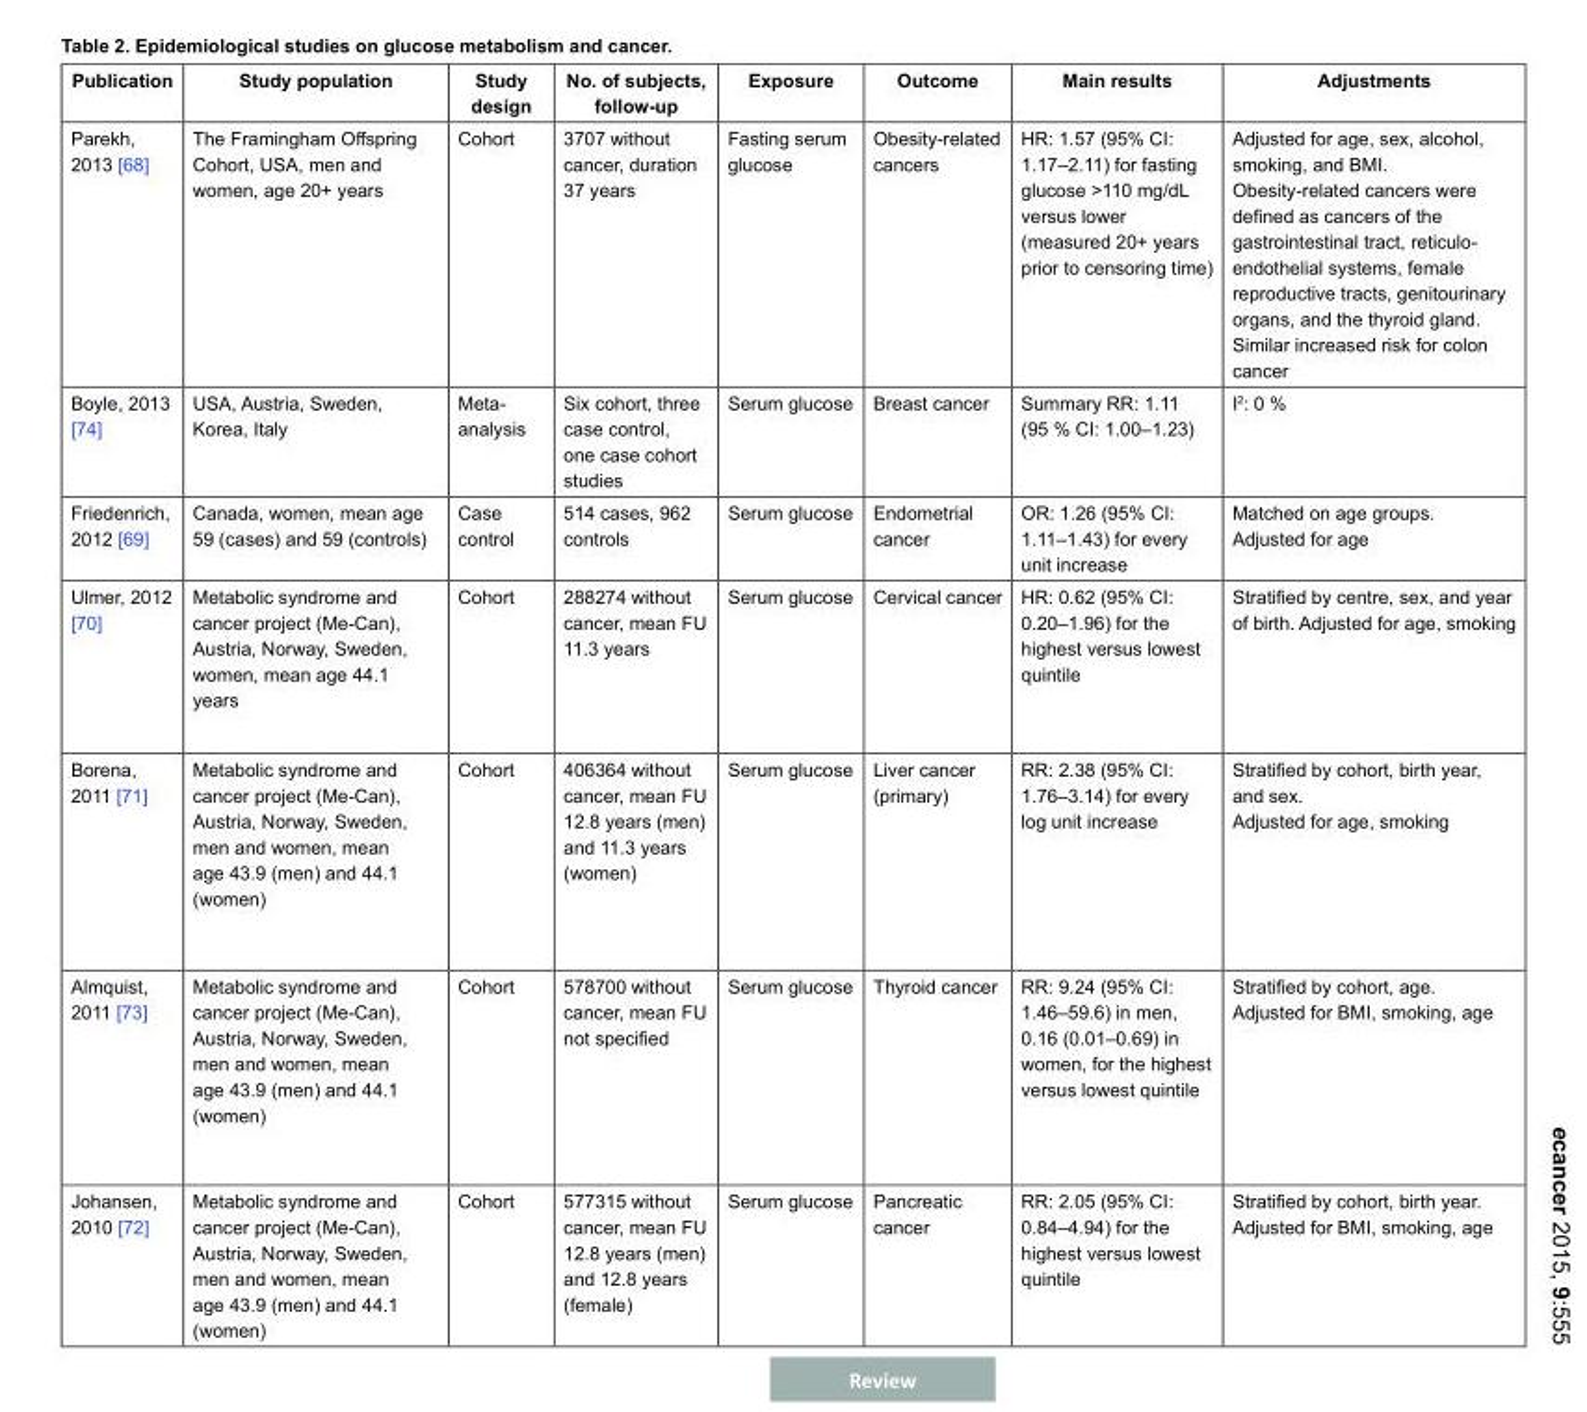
<table><thead><tr><td>Publication</td><td>Study population</td><td>Study design</td><td>No. of subjects, follow-up</td><td>Exposure</td><td>Outcome</td><td>Main results</td><td>Adjustments</td></tr></thead><tbody><tr><td>Parekh, 2013 [68]</td><td>The Framingham Offspring Cohort, USA, men and women, age 20+ years</td><td>Cohort</td><td>3707 without cancer, duration 37 years</td><td>Fasting serum glucose</td><td>Obesity-related cancers</td><td>HR: 1.57 (95% CI: 1.17–2.11) for fasting glucose &gt;110 mg/dL versus lower (measured 20+ years prior to censoring time)</td><td>Adjusted for age, sex, alcohol, smoking, and BMI. Obesity-related cancers were defined as cancers of the gastrointestinal tract, reticulo- endothelial systems, female reproductive tracts, genitourinary organs, and the thyroid gland. Similar increased risk for colon cancer</td></tr><tr><td>Boyle, 2013 [74]</td><td>USA, Austria, Sweden, Korea, Italy</td><td>Meta- analysis</td><td>Six cohort, three case control, one case cohort studies</td><td>Serum glucose</td><td>Breast cancer</td><td>Summary RR: 1.11 (95 % CI: 1.00–1.23)</td><td>I<sup>2</sup>: 0 %</td></tr><tr><td>Friedenrich, 2012 [69]</td><td>Canada, women, mean age 59 (cases) and 59 (controls)</td><td>Case control</td><td>514 cases, 962 controls</td><td>Serum glucose</td><td>Endometrial cancer</td><td>OR: 1.26 (95% CI: 1.11–1.43) for every unit increase</td><td>Matched on age groups. Adjusted for age</td></tr><tr><td>Ulmer, 2012 [70]</td><td>Metabolic syndrome and cancer project (Me-Can), Austria, Norway, Sweden, women, mean age 44.1 years</td><td>Cohort</td><td>288274 without cancer, mean FU 11.3 years</td><td>Serum glucose</td><td>Cervical cancer</td><td>HR: 0.62 (95% CI: 0.20–1.96) for the highest versus lowest quintile</td><td>Stratified by centre, sex, and year of birth. Adjusted for age, smoking</td></tr><tr><td>Borena, 2011 [71]</td><td>Metabolic syndrome and cancer project (Me-Can), Austria, Norway, Sweden, men and women, mean age 43.9 (men) and 44.1 (women)</td><td>Cohort</td><td>406364 without cancer, mean FU 12.8 years (men) and 11.3 years (women)</td><td>Serum glucose</td><td>Liver cancer (primary)</td><td>RR: 2.38 (95% CI: 1.76–3.14) for every log unit increase</td><td>Stratified by cohort, birth year, and sex. Adjusted for age, smoking</td></tr><tr><td>Almquist, 2011 [73]</td><td>Metabolic syndrome and cancer project (Me-Can), Austria, Norway, Sweden, men and women, mean age 43.9 (men) and 44.1 (women)</td><td>Cohort</td><td>578700 without cancer, mean FU not specified</td><td>Serum glucose</td><td>Thyroid cancer</td><td>RR: 9.24 (95% CI: 1.46–59.6) in men, 0.16 (0.01–0.69) in women, for the highest versus lowest quintile</td><td>Stratified by cohort, age. Adjusted for BMI, smoking, age</td></tr><tr><td>Johansen, 2010 [72]</td><td>Metabolic syndrome and cancer project (Me-Can), Austria, Norway, Sweden, men and women, mean age 43.9 (men) and 44.1 (women)</td><td>Cohort</td><td>577315 without cancer, mean FU 12.8 years (men) and 12.8 years (female)</td><td>Serum glucose</td><td>Pancreatic cancer</td><td>RR: 2.05 (95% CI: 0.84–4.94) for the highest versus lowest quintile</td><td>Stratified by cohort, birth year. Adjusted for BMI, smoking, age</td></tr></tbody></table>